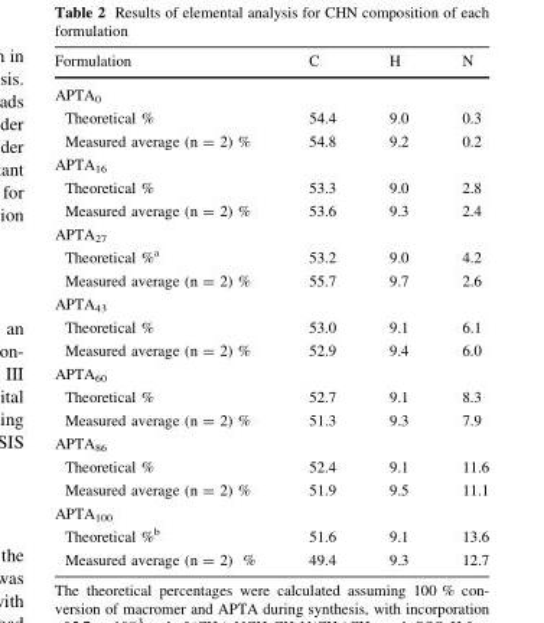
<table><thead><tr><td>Formulation</td><td>C</td><td>H</td><td>N</td></tr></thead><tbody><tr><td colspan="4">APTA<sub>0</sub></td></tr><tr><td>Theoretical %</td><td>54.4</td><td>9.0</td><td>0.3</td></tr><tr><td>Measured average (n = 2) %</td><td>54.8</td><td>9.2</td><td>0.2</td></tr><tr><td colspan="4">APTA<sub>16</sub></td></tr><tr><td>Theoretical %</td><td>53.3</td><td>9.0</td><td>2.8</td></tr><tr><td>Measured average (n = 2) %</td><td>53.6</td><td>9.3</td><td>2.4</td></tr><tr><td colspan="4">APTA<sub>27</sub></td></tr><tr><td>Theoretical %<sup>a</sup></td><td>53.2</td><td>9.0</td><td>4.2</td></tr><tr><td>Measured average (n = 2) %</td><td>55.7</td><td>9.7</td><td>2.6</td></tr><tr><td colspan="4">APTA<sub>43</sub></td></tr><tr><td>Theoretical %</td><td>53.0</td><td>9.1</td><td>6.1</td></tr><tr><td>Measured average (n = 2) %</td><td>52.9</td><td>9.4</td><td>6.0</td></tr><tr><td colspan="4">APTA<sub>60</sub></td></tr><tr><td>Theoretical %</td><td>52.7</td><td>9.1</td><td>8.3</td></tr><tr><td>Measured average (n = 2) %</td><td>51.3</td><td>9.3</td><td>7.9</td></tr><tr><td colspan="4">APTA<sub>86</sub></td></tr><tr><td>Theoretical %</td><td>52.4</td><td>9.1</td><td>11.6</td></tr><tr><td>Measured average (n = 2) %</td><td>51.9</td><td>9.5</td><td>11.1</td></tr><tr><td colspan="4">APTA<sub>100</sub></td></tr><tr><td>Theoretical %<sup>b</sup></td><td>51.6</td><td>9.1</td><td>13.6</td></tr><tr><td>Measured average (n = 2) %</td><td>49.4</td><td>9.3</td><td>12.7</td></tr></tbody></table>